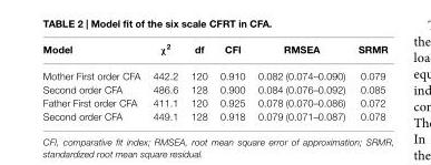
<table><thead><tr><td>Model</td><td>χ<sup>2</sup></td><td>df</td><td>CFI</td><td>RMSEA</td><td>SRMR</td></tr></thead><tbody><tr><td>Mother First order CFA</td><td>442.2</td><td>120</td><td>0.910</td><td>0.082 (0.074–0.090)</td><td>0.079</td></tr><tr><td>Second order CFA</td><td>486.6</td><td>128</td><td>0.900</td><td>0.084 (0.076–0.092)</td><td>0.085</td></tr><tr><td>Father First order CFA</td><td>411.1</td><td>120</td><td>0.925</td><td>0.078 (0.070–0.086)</td><td>0.072</td></tr><tr><td>Second order CFA</td><td>449.1</td><td>128</td><td>0.918</td><td>0.079 (0.071–0.087)</td><td>0.078</td></tr></tbody></table>